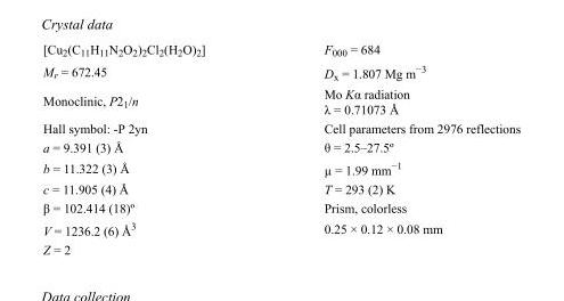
<table><tbody><tr><td>[Cu<sub>2</sub>(C<sub>11</sub>H<sub>11</sub>N<sub>2</sub>O<sub>2</sub>)<sub>2</sub>Cl<sub>2</sub>(H<sub>2</sub>O)<sub>2</sub>]</td><td>F000 = 684</td></tr><tr><td>M<sub>r</sub> = 672.45</td><td>D<sub>x</sub> = 1.807 Mg m<sup>−3</sup></td></tr><tr><td>Monoclinic, P2<sub>1</sub>/n</td><td>Mo Kα radiation λ = 0.71073 Å</td></tr><tr><td>Hall symbol: -P 2yn</td><td>Cell parameters from 2976 reflections</td></tr><tr><td>a = 9.391 (3) Å</td><td>θ = 2.5–27.5º</td></tr><tr><td>b = 11.322 (3) Å</td><td>µ = 1.99 mm<sup>−1</sup></td></tr><tr><td>c = 11.905 (4) Å</td><td>T = 293 (2) K</td></tr><tr><td>β = 102.414 (18)º</td><td>Prism, colorless</td></tr><tr><td>V = 1236.2 (6) Å<sup>3</sup></td><td>0.25 × 0.12 × 0.08 mm</td></tr><tr><td>Z = 2</td><td></td></tr></tbody></table>